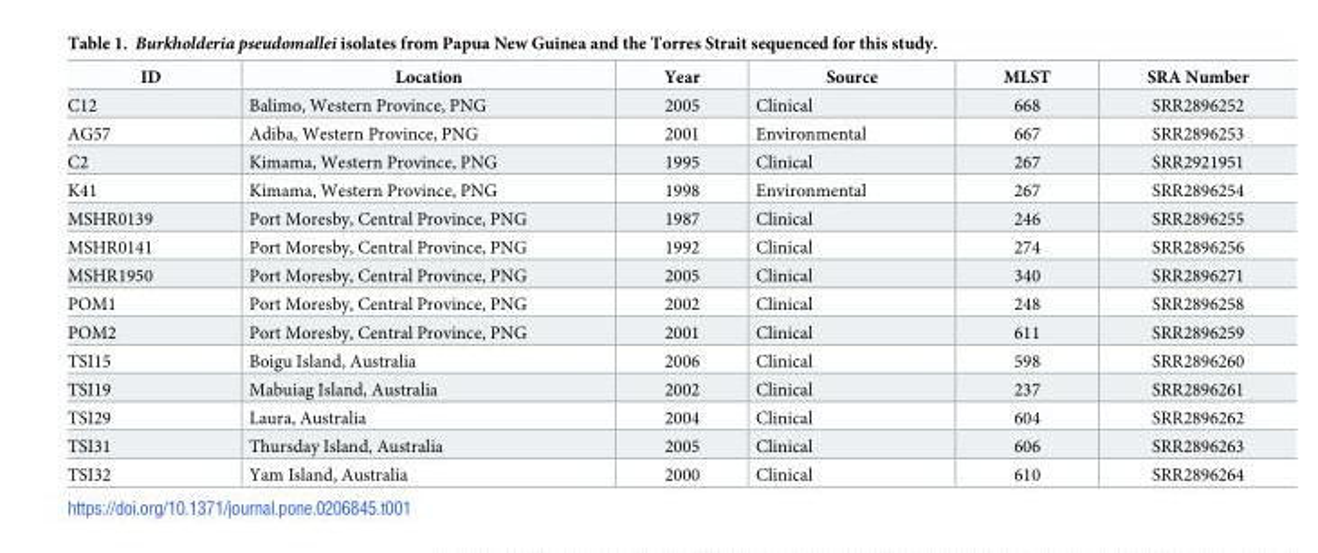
<table><thead><tr><td>ID</td><td>Location</td><td>Year</td><td>Source</td><td>MLST</td><td>SRA Number</td></tr></thead><tbody><tr><td>C12</td><td>Balimo, Western Province, PNG</td><td>2005</td><td>Clinical</td><td>668</td><td>SRR2896252</td></tr><tr><td>AG57</td><td>Adiba, Western Province, PNG</td><td>2001</td><td>Environmental</td><td>667</td><td>SRR2896253</td></tr><tr><td>C2</td><td>Kimama, Western Province, PNG</td><td>1995</td><td>Clinical</td><td>267</td><td>SRR2921951</td></tr><tr><td>K41</td><td>Kimama, Western Province, PNG</td><td>1998</td><td>Environmental</td><td>267</td><td>SRR2896254</td></tr><tr><td>MSHR0139</td><td>Port Moresby, Central Province, PNG</td><td>1987</td><td>Clinical</td><td>246</td><td>SRR2896255</td></tr><tr><td>MSHR0141</td><td>Port Moresby, Central Province, PNG</td><td>1992</td><td>Clinical</td><td>274</td><td>SRR2896256</td></tr><tr><td>MSHR1950</td><td>Port Moresby, Central Province, PNG</td><td>2005</td><td>Clinical</td><td>340</td><td>SRR2896271</td></tr><tr><td>POM1</td><td>Port Moresby, Central Province, PNG</td><td>2002</td><td>Clinical</td><td>248</td><td>SRR2896258</td></tr><tr><td>POM2</td><td>Port Moresby, Central Province, PNG</td><td>2001</td><td>Clinical</td><td>611</td><td>SRR2896259</td></tr><tr><td>TSI15</td><td>Boigu Island, Australia</td><td>2006</td><td>Clinical</td><td>598</td><td>SRR2896260</td></tr><tr><td>TSI19</td><td>Mabuiag Island, Australia</td><td>2002</td><td>Clinical</td><td>237</td><td>SRR2896261</td></tr><tr><td>TSI29</td><td>Laura, Australia</td><td>2004</td><td>Clinical</td><td>604</td><td>SRR2896262</td></tr><tr><td>TSI31</td><td>Thursday Island, Australia</td><td>2005</td><td>Clinical</td><td>606</td><td>SRR2896263</td></tr><tr><td>TSI32</td><td>Yam Island, Australia</td><td>2000</td><td>Clinical</td><td>610</td><td>SRR2896264</td></tr></tbody></table>